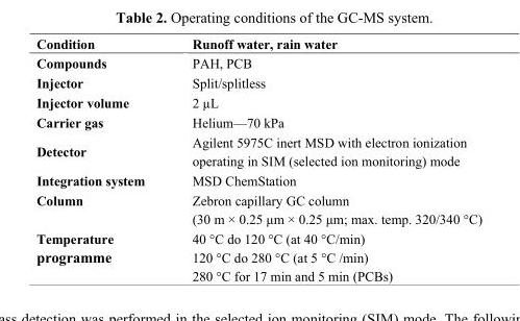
<table><thead><tr><td>Condition</td><td>Runoff water, rain water</td></tr></thead><tbody><tr><td>Compounds</td><td>PAH, PCB</td></tr><tr><td>Injector</td><td>Split/splitless</td></tr><tr><td>Injector volume</td><td>2 µL</td></tr><tr><td>Carrier gas</td><td>Helium—70 kPa</td></tr><tr><td>Detector</td><td>Agilent 5975C inert MSD with electron ionization operating in SIM (selected ion monitoring) mode</td></tr><tr><td>Integration system</td><td>MSD ChemStation</td></tr><tr><td>Column</td><td>Zebron capillary GC column (30 m × 0.25 μm × 0.25 μm; max. temp. 320/340 °C)</td></tr><tr><td>Temperature programme</td><td>40 °C do 120 °C (at 40 °C/min) 120 °C do 280 °C (at 5 °C /min) 280 °C for 17 min and 5 min (PCBs)</td></tr></tbody></table>